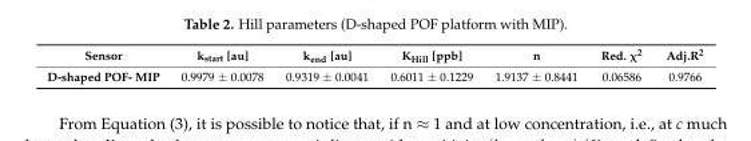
<table><thead><tr><td>Sensor</td><td>k<sub>start</sub> [au]</td><td>k<sub>end</sub> [au]</td><td>K<sub>Hill</sub> [ppb]</td><td>n</td><td>Red. χ<sup>2</sup></td><td>Adj.R<sup>2</sup></td></tr></thead><tbody><tr><td>D-shaped POF- MIP</td><td>0.9979 ± 0.0078</td><td>0.9319 ± 0.0041</td><td>0.6011 ± 0.1229</td><td>1.9137 ± 0.8441</td><td>0.06586</td><td>0.9766</td></tr></tbody></table>